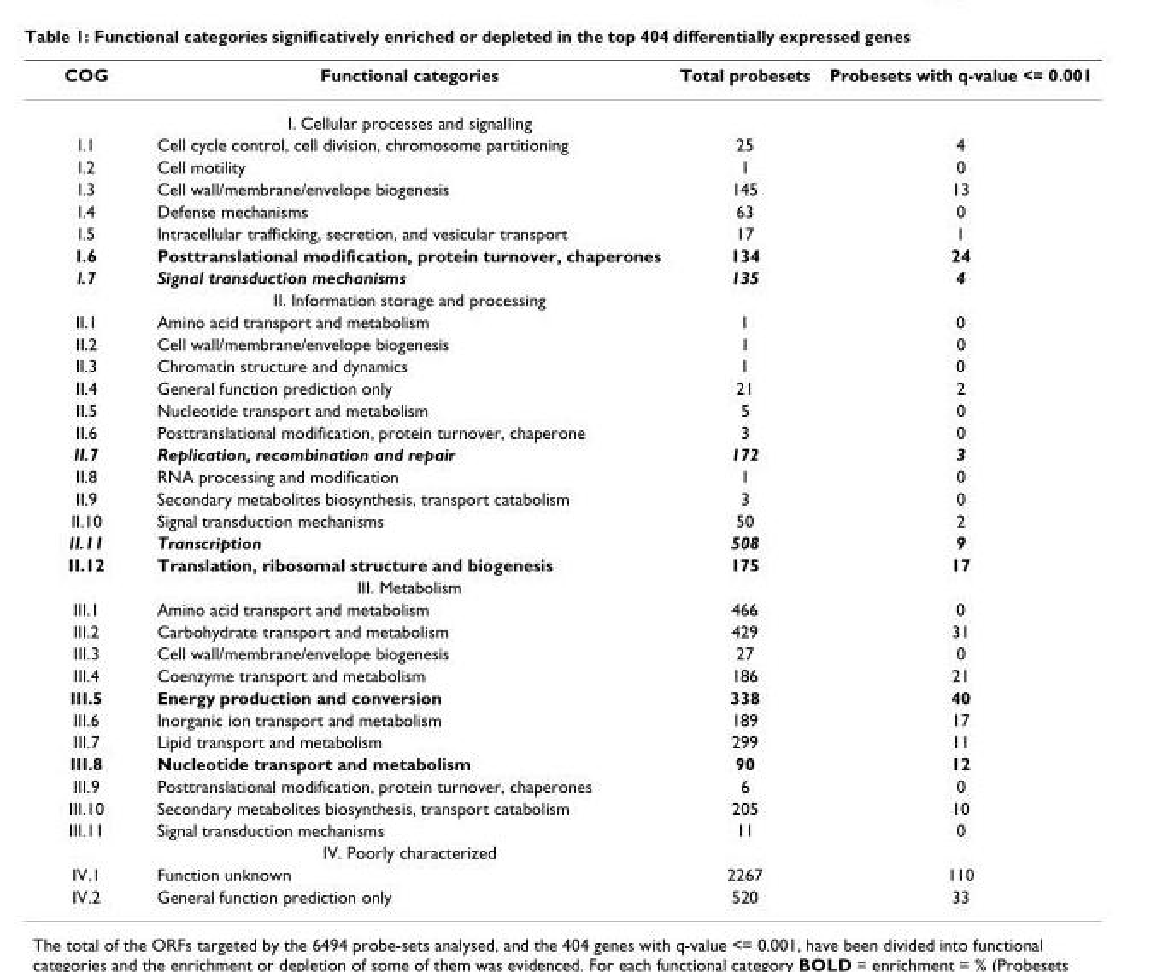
<table><thead><tr><td>COG</td><td>Functional categories</td><td>Total probesets</td><td>Probesets with q-value &lt;= 0.001</td></tr></thead><tbody><tr><td></td><td>I. Cellular processes and signalling</td><td></td><td></td></tr><tr><td>I.1</td><td>Cell cycle control, cell division, chromosome partitioning</td><td>25</td><td>4</td></tr><tr><td>I.2</td><td>Cell motility</td><td>1</td><td>0</td></tr><tr><td>I.3</td><td>Cell wall/membrane/envelope biogenesis</td><td>145</td><td>13</td></tr><tr><td>I.4</td><td>Defense mechanisms</td><td>63</td><td>0</td></tr><tr><td>I.5</td><td>Intracellular trafficking, secretion, and vesicular transport</td><td>17</td><td>1</td></tr><tr><td>I.6</td><td>Posttranslational modification, protein turnover, chaperones</td><td>134</td><td>24</td></tr><tr><td rowspan="2">I.7</td><td>Signal transduction mechanisms</td><td>135</td><td>4</td></tr><tr><td>II. Information storage and processing</td><td></td><td></td></tr><tr><td>II.1</td><td>Amino acid transport and metabolism</td><td>1</td><td>0</td></tr><tr><td>II.2</td><td>Cell wall/membrane/envelope biogenesis</td><td>1</td><td>0</td></tr><tr><td>II.3</td><td>Chromatin structure and dynamics</td><td>1</td><td>0</td></tr><tr><td>II.4</td><td>General function prediction only</td><td>21</td><td>2</td></tr><tr><td>II.5</td><td>Nucleotide transport and metabolism</td><td>5</td><td>0</td></tr><tr><td>II.6</td><td>Posttranslational modification, protein turnover, chaperone</td><td>3</td><td>0</td></tr><tr><td>II.7</td><td>Replication, recombination and repair</td><td>172</td><td>3</td></tr><tr><td>II.8</td><td>RNA processing and modification</td><td>1</td><td>0</td></tr><tr><td>II.9</td><td>Secondary metabolites biosynthesis, transport catabolism</td><td>3</td><td>0</td></tr><tr><td>II.10</td><td>Signal transduction mechanisms</td><td>50</td><td>2</td></tr><tr><td>II.11</td><td>Transcription</td><td>508</td><td>9</td></tr><tr><td rowspan="2">II.12</td><td>Translation, ribosomal structure and biogenesis</td><td>175</td><td>17</td></tr><tr><td>III. Metabolism</td><td></td><td></td></tr><tr><td>III.1</td><td>Amino acid transport and metabolism</td><td>466</td><td>0</td></tr><tr><td>III.2</td><td>Carbohydrate transport and metabolism</td><td>429</td><td>31</td></tr><tr><td>III.3</td><td>Cell wall/membrane/envelope biogenesis</td><td>27</td><td>0</td></tr><tr><td>III.4</td><td>Coenzyme transport and metabolism</td><td>186</td><td>21</td></tr><tr><td>III.5</td><td>Energy production and conversion</td><td>338</td><td>40</td></tr><tr><td>III.6</td><td>Inorganic ion transport and metabolism</td><td>189</td><td>17</td></tr><tr><td>III.7</td><td>Lipid transport and metabolism</td><td>299</td><td>11</td></tr><tr><td>III.8</td><td>Nucleotide transport and metabolism</td><td>90</td><td>12</td></tr><tr><td>III.9</td><td>Posttranslational modification, protein turnover, chaperones</td><td>6</td><td>0</td></tr><tr><td>III.10</td><td>Secondary metabolites biosynthesis, transport catabolism</td><td>205</td><td>10</td></tr><tr><td rowspan="2">III.11</td><td>Signal transduction mechanisms</td><td>11</td><td>0</td></tr><tr><td>IV. Poorly characterized</td><td></td><td></td></tr><tr><td>IV.1</td><td>Function unknown</td><td>2267</td><td>110</td></tr><tr><td>IV.2</td><td>General function prediction only</td><td>520</td><td>33</td></tr></tbody></table>